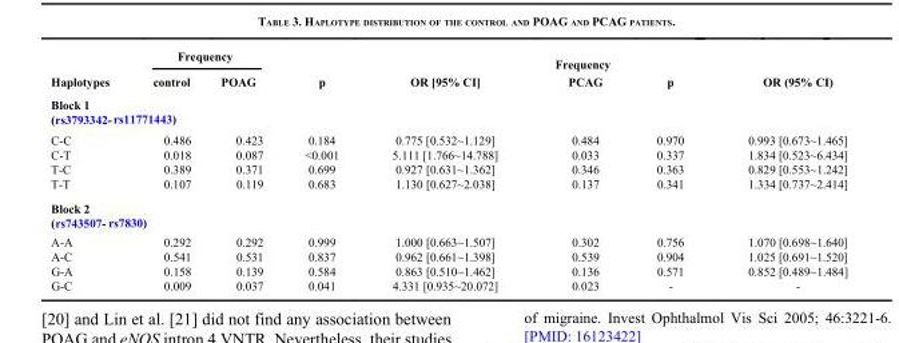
<table><thead><tr><td rowspan="2">Haplotypes</td><td colspan="2">Frequency</td><td rowspan="2">p</td><td rowspan="2">OR [95% CI]</td><td rowspan="2">Frequency PCAG</td><td rowspan="2">p</td><td rowspan="2">OR (95% CI)</td></tr><tr><td>control</td><td>POAG</td></tr></thead><tbody><tr><td colspan="8">Block 1 (rs3793342-rs11771443)</td></tr><tr><td>C-C</td><td>0.486</td><td>0.423</td><td>0.184</td><td>0.775 [0.532~1.129]</td><td>0.484</td><td>0.970</td><td>0.993 [0.673~1.465]</td></tr><tr><td>C-T</td><td>0.018</td><td>0.087</td><td>&lt;0.001</td><td>5.111 [1.766~14.788]</td><td>0.033</td><td>0.337</td><td>1.834 [0.523~6.434]</td></tr><tr><td>T-C</td><td>0.389</td><td>0.371</td><td>0.699</td><td>0.927 [0.631~1.362]</td><td>0.346</td><td>0.363</td><td>0.829 [0.553~1.242]</td></tr><tr><td>T-T</td><td>0.107</td><td>0.119</td><td>0.683</td><td>1.130 [0.627~2.038]</td><td>0.137</td><td>0.341</td><td>1.334 [0.737~2.414]</td></tr><tr><td colspan="8">Block 2 (rs743507- rs7830)</td></tr><tr><td>A-A</td><td>0.292</td><td>0.292</td><td>0.999</td><td>1.000 [0.663~1.507]</td><td>0.302</td><td>0.756</td><td>1.070 [0.698~1.640]</td></tr><tr><td>A-C</td><td>0.541</td><td>0.531</td><td>0.837</td><td>0.962 [0.661~1.398]</td><td>0.539</td><td>0.904</td><td>1.025 [0.691~1.520]</td></tr><tr><td>G-A</td><td>0.158</td><td>0.139</td><td>0.584</td><td>0.863 [0.510~1.462]</td><td>0.136</td><td>0.571</td><td>0.852 [0.489~1.484]</td></tr><tr><td>G-C</td><td>0.009</td><td>0.037</td><td>0.041</td><td>4.331 [0.935~20.072]</td><td>0.023</td><td>-</td><td>-</td></tr></tbody></table>